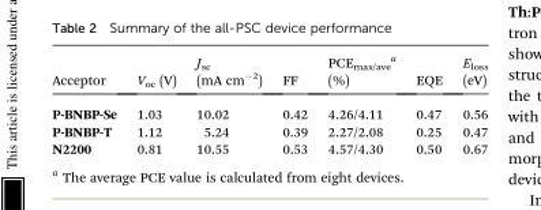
<table><thead><tr><td>Acceptor</td><td>V<sub>oc</sub> (V)</td><td>J<sub>sc</sub> (mA cm<sup>–2</sup>)</td><td>FF</td><td>PCE<sub>max/ave</sub> <sup>a</sup> (%)</td><td>EQE</td><td>E<sub>loss</sub> (eV)</td></tr></thead><tbody><tr><td>P-BNBP-Se</td><td>1.03</td><td>10.02</td><td>0.42</td><td>4.26/4.11</td><td>0.47</td><td>0.56</td></tr><tr><td>P-BNBP-T</td><td>1.12</td><td>5.24</td><td>0.39</td><td>2.27/2.08</td><td>0.25</td><td>0.47</td></tr><tr><td>N2200</td><td>0.81</td><td>10.55</td><td>0.53</td><td>4.57/4.30</td><td>0.50</td><td>0.67</td></tr></tbody></table>